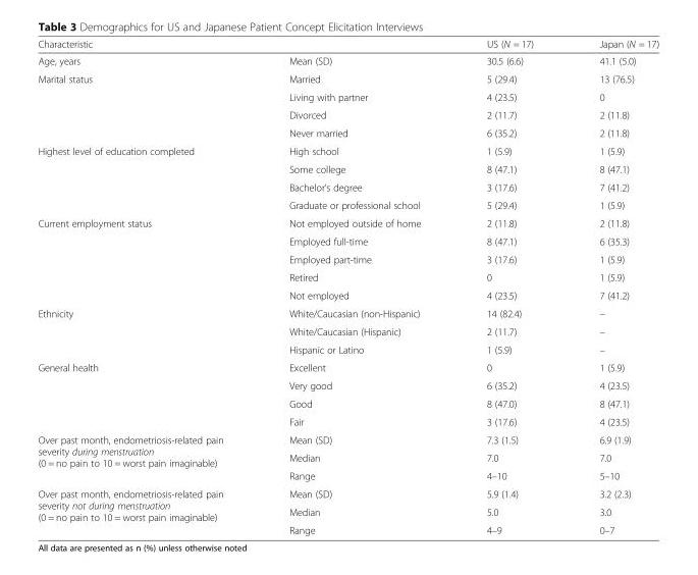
<table><thead><tr><td>Characteristic</td><td></td><td>US (N = 17)</td><td>Japan (N = 17)</td></tr></thead><tbody><tr><td>Age, years</td><td>Mean (SD)</td><td>30.5 (6.6)</td><td>41.1 (5.0)</td></tr><tr><td rowspan="4">Marital status</td><td>Married</td><td>5 (29.4)</td><td>13 (76.5)</td></tr><tr><td>Living with partner</td><td>4 (23.5)</td><td>0</td></tr><tr><td>Divorced</td><td>2 (11.7)</td><td>2 (11.8)</td></tr><tr><td>Never married</td><td>6 (35.2)</td><td>2 (11.8)</td></tr><tr><td rowspan="4">Highest level of education completed</td><td>High school</td><td>1 (5.9)</td><td>1 (5.9)</td></tr><tr><td>Some college</td><td>8 (47.1)</td><td>8 (47.1)</td></tr><tr><td>Bachelor’s degree</td><td>3 (17.6)</td><td>7 (41.2)</td></tr><tr><td>Graduate or professional school</td><td>5 (29.4)</td><td>1 (5.9)</td></tr><tr><td rowspan="5">Current employment status</td><td>Not employed outside of home</td><td>2 (11.8)</td><td>2 (11.8)</td></tr><tr><td>Employed full-time</td><td>8 (47.1)</td><td>6 (35.3)</td></tr><tr><td>Employed part-time</td><td>3 (17.6)</td><td>1 (5.9)</td></tr><tr><td>Retired</td><td>0</td><td>1 (5.9)</td></tr><tr><td>Not employed</td><td>4 (23.5)</td><td>7 (41.2)</td></tr><tr><td rowspan="3">Ethnicity</td><td>White/Caucasian (non-Hispanic)</td><td>14 (82.4)</td><td>–</td></tr><tr><td>White/Caucasian (Hispanic)</td><td>2 (11.7)</td><td>–</td></tr><tr><td>Hispanic or Latino</td><td>1 (5.9)</td><td>–</td></tr><tr><td rowspan="4">General health</td><td>Excellent</td><td>0</td><td>1 (5.9)</td></tr><tr><td>Very good</td><td>6 (35.2)</td><td>4 (23.5)</td></tr><tr><td>Good</td><td>8 (47.0)</td><td>8 (47.1)</td></tr><tr><td>Fair</td><td>3 (17.6)</td><td>4 (23.5)</td></tr><tr><td rowspan="3">Over past month, endometriosis-related pain severity during menstruation (0 = no pain to 10 = worst pain imaginable)</td><td>Mean (SD)</td><td>7.3 (1.5)</td><td>6.9 (1.9)</td></tr><tr><td>Median</td><td>7.0</td><td>7.0</td></tr><tr><td>Range</td><td>4–10</td><td>5–10</td></tr><tr><td rowspan="3">Over past month, endometriosis-related pain severity not during menstruation (0 = no pain to 10 = worst pain imaginable)</td><td>Mean (SD)</td><td>5.9 (1.4)</td><td>3.2 (2.3)</td></tr><tr><td>Median</td><td>5.0</td><td>3.0</td></tr><tr><td>Range</td><td>4–9</td><td>0–7</td></tr></tbody></table>